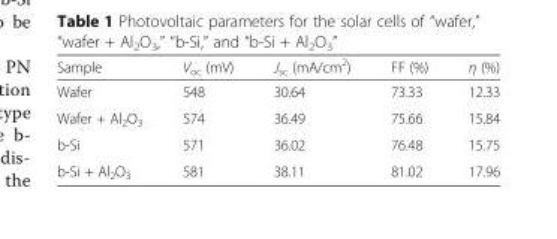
<table><thead><tr><td>Sample</td><td>V<sub>oc</sub> (mV)</td><td>J<sub>sc</sub> (mA/cm<sup>2</sup>)</td><td>FF (%)</td><td>η (%)</td></tr></thead><tbody><tr><td>Wafer</td><td>548</td><td>30.64</td><td>73.33</td><td>12.33</td></tr><tr><td>Wafer + Al<sub>2</sub>O<sub>3</sub></td><td>574</td><td>36.49</td><td>75.66</td><td>15.84</td></tr><tr><td>b-Si</td><td>571</td><td>36.02</td><td>76.48</td><td>15.75</td></tr><tr><td>b-Si + Al<sub>2</sub>O<sub>3</sub></td><td>581</td><td>38.11</td><td>81.02</td><td>17.96</td></tr></tbody></table>